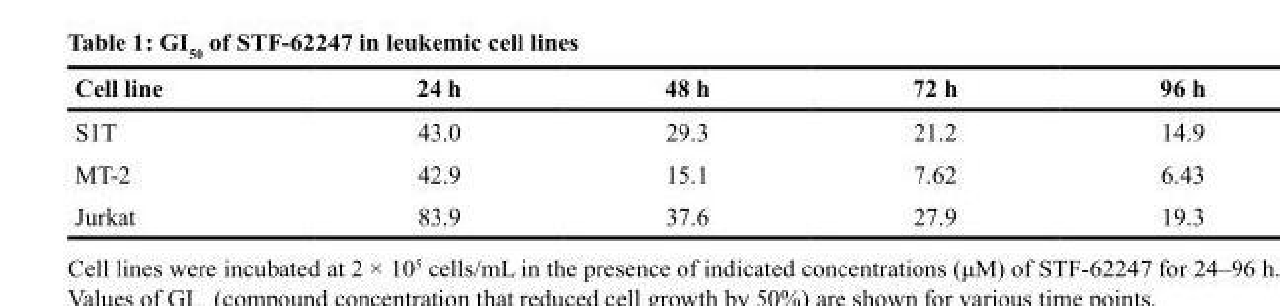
<table><thead><tr><td>Cell line</td><td>24 h</td><td>48 h</td><td>72 h</td><td>96 h</td></tr></thead><tbody><tr><td>S1T</td><td>43.0</td><td>29.3</td><td>21.2</td><td>14.9</td></tr><tr><td>MT-2</td><td>42.9</td><td>15.1</td><td>7.62</td><td>6.43</td></tr><tr><td>Jurkat</td><td>83.9</td><td>37.6</td><td>27.9</td><td>19.3</td></tr></tbody></table>